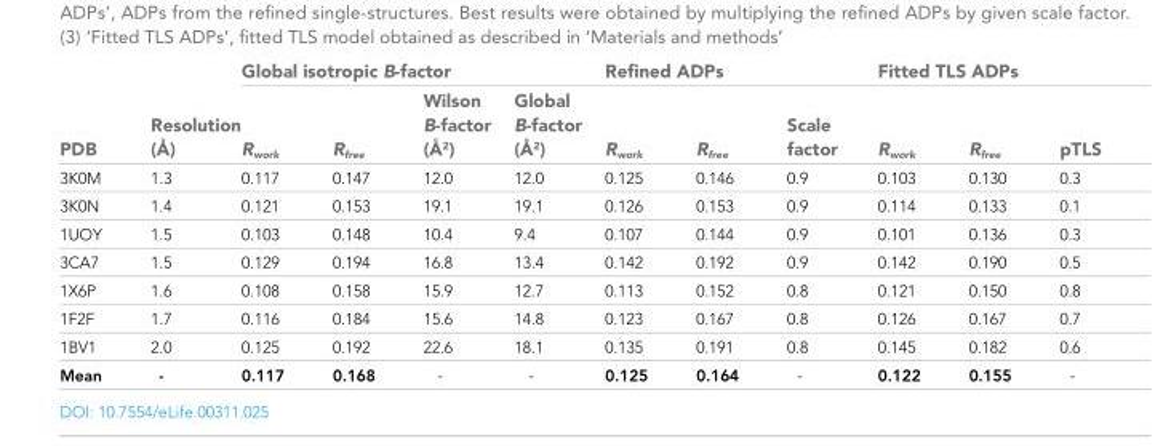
<table><thead><tr><td rowspan="2">PDB</td><td rowspan="2">Resolution (Å)</td><td colspan="4">Global isotropic B-factor</td><td colspan="3">Refined ADPs</td><td colspan="3">Fitted TLS ADPs</td></tr><tr><td>R<sub>work</sub></td><td>R<sub>free</sub></td><td>Wilson B-factor (Å<sup>2</sup>)</td><td>Global B-factor (Å<sup>2</sup>)</td><td>R<sub>work</sub></td><td>R<sub>free</sub></td><td>Scale factor</td><td>R<sub>work</sub></td><td>R<sub>free</sub></td><td>pTLS</td></tr></thead><tbody><tr><td>3K0M</td><td>1.3</td><td>0.117</td><td>0.147</td><td>12.0</td><td>12.0</td><td>0.125</td><td>0.146</td><td>0.9</td><td>0.103</td><td>0.130</td><td>0.3</td></tr><tr><td>3K0N</td><td>1.4</td><td>0.121</td><td>0.153</td><td>19.1</td><td>19.1</td><td>0.126</td><td>0.153</td><td>0.9</td><td>0.114</td><td>0.133</td><td>0.1</td></tr><tr><td>1UOY</td><td>1.5</td><td>0.103</td><td>0.148</td><td>10.4</td><td>9.4</td><td>0.107</td><td>0.144</td><td>0.9</td><td>0.101</td><td>0.136</td><td>0.3</td></tr><tr><td>3CA7</td><td>1.5</td><td>0.129</td><td>0.194</td><td>16.8</td><td>13.4</td><td>0.142</td><td>0.192</td><td>0.9</td><td>0.142</td><td>0.190</td><td>0.5</td></tr><tr><td>1X6P</td><td>1.6</td><td>0.108</td><td>0.158</td><td>15.9</td><td>12.7</td><td>0.113</td><td>0.152</td><td>0.8</td><td>0.121</td><td>0.150</td><td>0.8</td></tr><tr><td>1F2F</td><td>1.7</td><td>0.116</td><td>0.184</td><td>15.6</td><td>14.8</td><td>0.123</td><td>0.167</td><td>0.8</td><td>0.126</td><td>0.167</td><td>0.7</td></tr><tr><td>1BV1</td><td>2.0</td><td>0.125</td><td>0.192</td><td>22.6</td><td>18.1</td><td>0.135</td><td>0.191</td><td>0.8</td><td>0.145</td><td>0.182</td><td>0.6</td></tr><tr><td>Mean</td><td>-</td><td>0.117</td><td>0.168</td><td>-</td><td>-</td><td>0.125</td><td>0.164</td><td>-</td><td>0.122</td><td>0.155</td><td>-</td></tr></tbody></table>